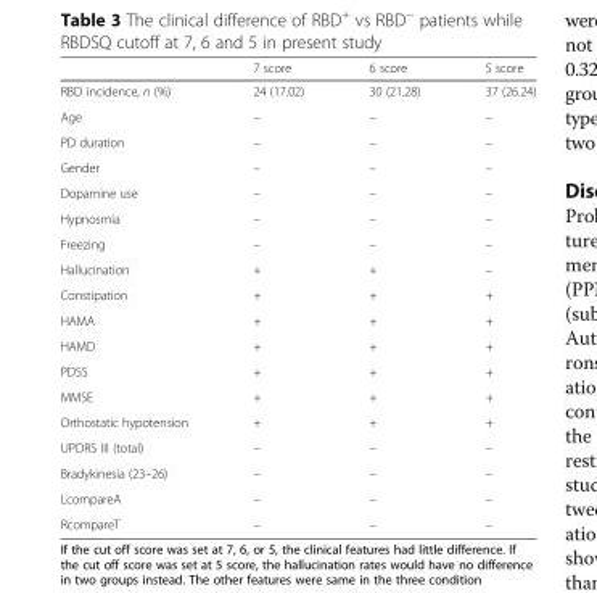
<table><thead><tr><td></td><td>7 score</td><td>6 score</td><td>5 score</td></tr></thead><tbody><tr><td>RBD incidence, n (%)</td><td>24 (17.02)</td><td>30 (21.28)</td><td>37 (26.24)</td></tr><tr><td>Age</td><td>–</td><td>–</td><td>–</td></tr><tr><td>PD duration</td><td>–</td><td>–</td><td>–</td></tr><tr><td>Gender</td><td>–</td><td>–</td><td>–</td></tr><tr><td>Dopamine use</td><td>–</td><td>–</td><td>–</td></tr><tr><td>Hypnosmia</td><td>–</td><td>–</td><td>–</td></tr><tr><td>Freezing</td><td>–</td><td>–</td><td>–</td></tr><tr><td>Hallucination</td><td>+</td><td>+</td><td>–</td></tr><tr><td>Constipation</td><td>+</td><td>+</td><td>+</td></tr><tr><td>HAMA</td><td>+</td><td>+</td><td>+</td></tr><tr><td>HAMD</td><td>+</td><td>+</td><td>+</td></tr><tr><td>PDSS</td><td>+</td><td>+</td><td>+</td></tr><tr><td>MMSE</td><td>+</td><td>+</td><td>+</td></tr><tr><td>Orthostatic hypotension</td><td>+</td><td>+</td><td>+</td></tr><tr><td>UPDRS III (total)</td><td>–</td><td>–</td><td>–</td></tr><tr><td>Bradykinesia (23–26)</td><td>–</td><td>–</td><td>–</td></tr><tr><td>LcompareA</td><td>–</td><td>–</td><td>–</td></tr><tr><td>RcompareT</td><td>–</td><td>–</td><td>–</td></tr></tbody></table>